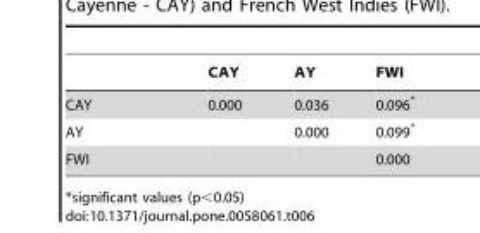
<table><thead><tr><td></td><td>CAY</td><td>AY</td><td>FWI</td></tr></thead><tbody><tr><td>CAY</td><td>0.000</td><td>0.036</td><td>0.096*</td></tr><tr><td>AY</td><td></td><td>0.000</td><td>0.099*</td></tr><tr><td>FWI</td><td></td><td></td><td>0.000</td></tr></tbody></table>